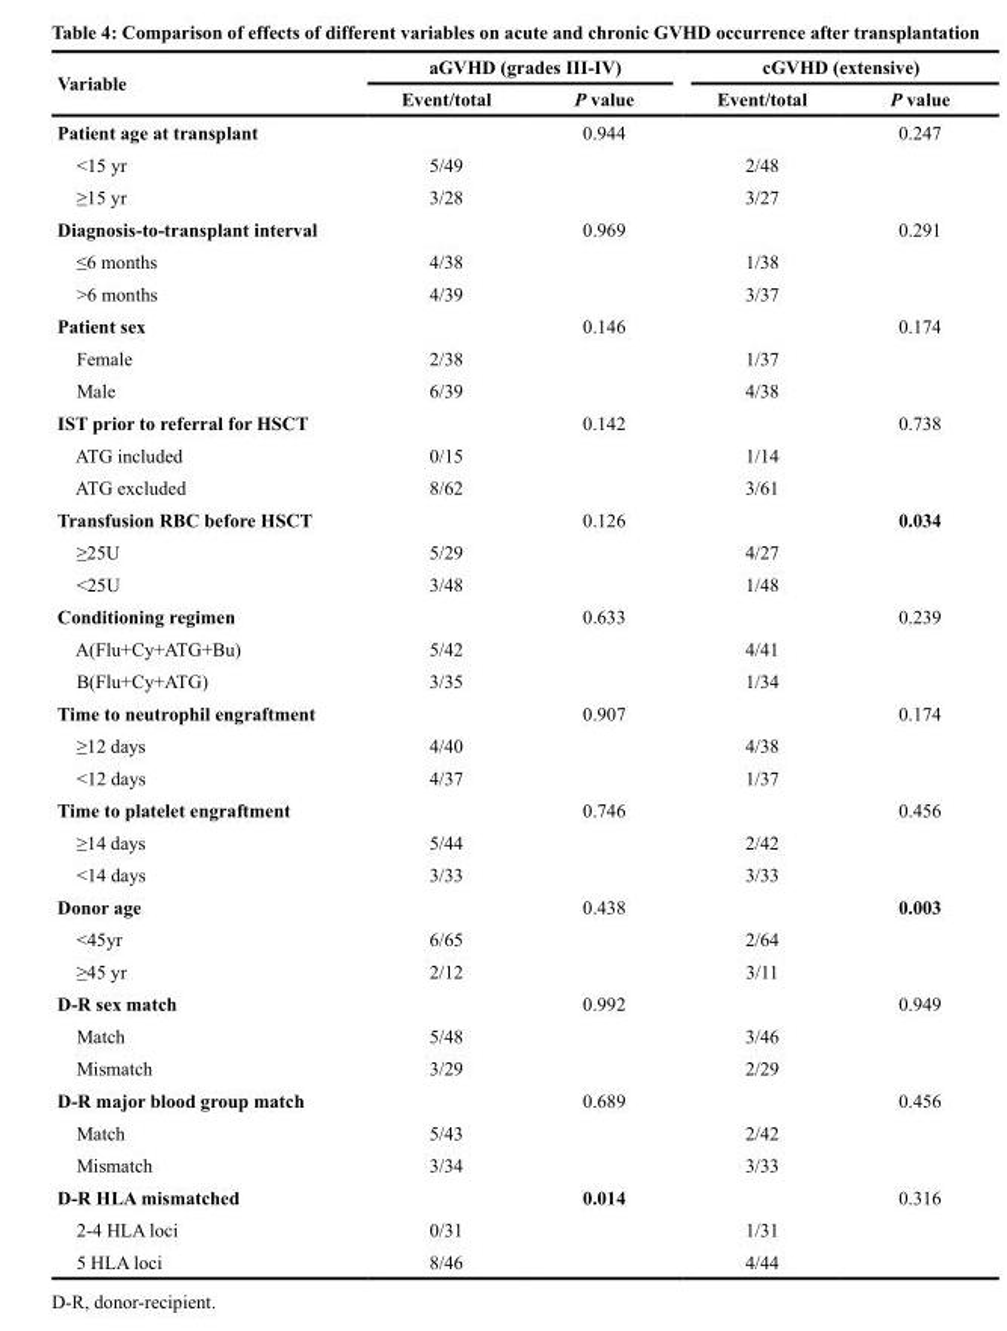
<table><thead><tr><td rowspan="2">Variable</td><td colspan="2">aGVHD (grades III-IV)</td><td colspan="2">cGVHD (extensive)</td></tr><tr><td>Event/total</td><td>P value</td><td>Event/total</td><td>P value</td></tr></thead><tbody><tr><td>Patient age at transplant</td><td></td><td>0.944</td><td></td><td>0.247</td></tr><tr><td>&lt;15 yr</td><td>5/49</td><td></td><td>2/48</td><td></td></tr><tr><td>≥15 yr</td><td>3/28</td><td></td><td>3/27</td><td></td></tr><tr><td>Diagnosis-to-transplant interval</td><td></td><td>0.969</td><td></td><td>0.291</td></tr><tr><td>≤6 months</td><td>4/38</td><td></td><td>1/38</td><td></td></tr><tr><td>&gt;6 months</td><td>4/39</td><td></td><td>3/37</td><td></td></tr><tr><td>Patient sex</td><td></td><td>0.146</td><td></td><td>0.174</td></tr><tr><td>Female</td><td>2/38</td><td></td><td>1/37</td><td></td></tr><tr><td>Male</td><td>6/39</td><td></td><td>4/38</td><td></td></tr><tr><td>IST prior to referral for HSCT</td><td></td><td>0.142</td><td></td><td>0.738</td></tr><tr><td>ATG included</td><td>0/15</td><td></td><td>1/14</td><td></td></tr><tr><td>ATG excluded</td><td>8/62</td><td></td><td>3/61</td><td></td></tr><tr><td>Transfusion RBC before HSCT</td><td></td><td>0.126</td><td></td><td>0.034</td></tr><tr><td>≥25U</td><td>5/29</td><td></td><td>4/27</td><td></td></tr><tr><td>&lt;25U</td><td>3/48</td><td></td><td>1/48</td><td></td></tr><tr><td>Conditioning regimen</td><td></td><td>0.633</td><td></td><td>0.239</td></tr><tr><td>A(Flu+Cy+ATG+Bu)</td><td>5/42</td><td></td><td>4/41</td><td></td></tr><tr><td>B(Flu+Cy+ATG)</td><td>3/35</td><td></td><td>1/34</td><td></td></tr><tr><td>Time to neutrophil engraftment</td><td></td><td>0.907</td><td></td><td>0.174</td></tr><tr><td>≥12 days</td><td>4/40</td><td></td><td>4/38</td><td></td></tr><tr><td>&lt;12 days</td><td>4/37</td><td></td><td>1/37</td><td></td></tr><tr><td>Time to platelet engraftment</td><td></td><td>0.746</td><td></td><td>0.456</td></tr><tr><td>≥14 days</td><td>5/44</td><td></td><td>2/42</td><td></td></tr><tr><td>&lt;14 days</td><td>3/33</td><td></td><td>3/33</td><td></td></tr><tr><td>Donor age</td><td></td><td>0.438</td><td></td><td>0.003</td></tr><tr><td>&lt;45yr</td><td>6/65</td><td></td><td>2/64</td><td></td></tr><tr><td>≥45 yr</td><td>2/12</td><td></td><td>3/11</td><td></td></tr><tr><td>D-R sex match</td><td></td><td>0.992</td><td></td><td>0.949</td></tr><tr><td>Match</td><td>5/48</td><td></td><td>3/46</td><td></td></tr><tr><td>Mismatch</td><td>3/29</td><td></td><td>2/29</td><td></td></tr><tr><td>D-R major blood group match</td><td></td><td>0.689</td><td></td><td>0.456</td></tr><tr><td>Match</td><td>5/43</td><td></td><td>2/42</td><td></td></tr><tr><td>Mismatch</td><td>3/34</td><td></td><td>3/33</td><td></td></tr><tr><td>D-R HLA mismatched</td><td></td><td>0.014</td><td></td><td>0.316</td></tr><tr><td>2-4 HLA loci</td><td>0/31</td><td></td><td>1/31</td><td></td></tr><tr><td>5 HLA loci</td><td>8/46</td><td></td><td>4/44</td><td></td></tr></tbody></table>